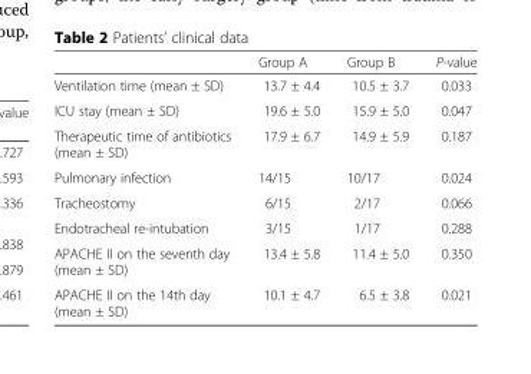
<table><thead><tr><td></td><td>Group A</td><td>Group B</td><td>P-value</td></tr></thead><tbody><tr><td>Ventilation time (mean ± SD)</td><td>13.7 ± 4.4</td><td>10.5 ± 3.7</td><td>0.033</td></tr><tr><td>ICU stay (mean ± SD)</td><td>19.6 ± 5.0</td><td>15.9 ± 5.0</td><td>0.047</td></tr><tr><td>Therapeutic time of antibiotics (mean ± SD)</td><td>17.9 ± 6.7</td><td>14.9 ± 5.9</td><td>0.187</td></tr><tr><td>Pulmonary infection</td><td>14/15</td><td>10/17</td><td>0.024</td></tr><tr><td>Tracheostomy</td><td>6/15</td><td>2/17</td><td>0.066</td></tr><tr><td>Endotracheal re-intubation</td><td>3/15</td><td>1/17</td><td>0.288</td></tr><tr><td>APACHE II on the seventh day (mean ± SD)</td><td>13.4 ± 5.8</td><td>11.4 ± 5.0</td><td>0.350</td></tr><tr><td>APACHE II on the 14th day (mean ± SD)</td><td>10.1 ± 4.7</td><td>6.5 ± 3.8</td><td>0.021</td></tr></tbody></table>